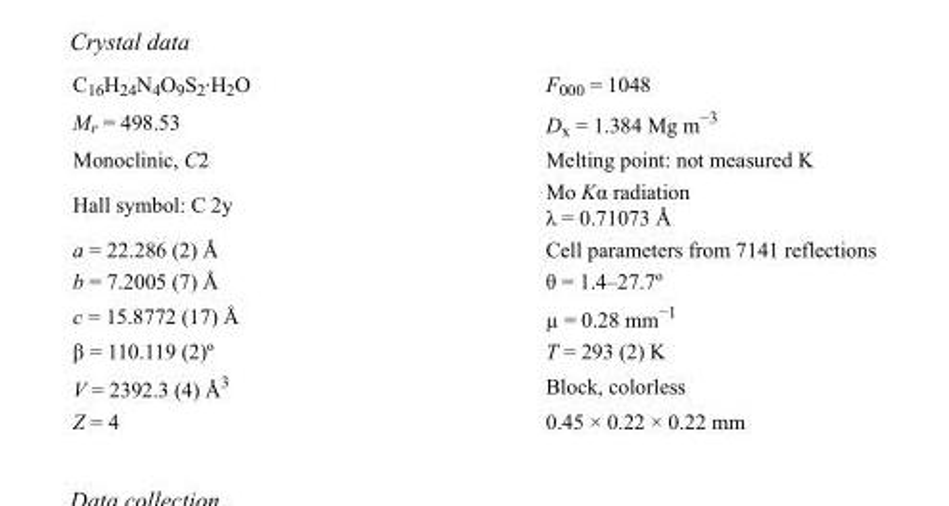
<table><tbody><tr><td>C<sub>16</sub>H<sub>24</sub>N<sub>4</sub>O<sub>9</sub>S<sub>2</sub>·H<sub>2</sub>O</td><td>F000 = 1048</td></tr><tr><td>M<sub>r</sub> = 498.53</td><td>D<sub>x</sub> = 1.384 Mg m<sup>−3</sup></td></tr><tr><td>Monoclinic, C2</td><td>Melting point: not measured K</td></tr><tr><td>Hall symbol: C 2y</td><td>Mo Kα radiation λ = 0.71073 Å</td></tr><tr><td>a = 22.286 (2) Å</td><td>Cell parameters from 7141 reflections</td></tr><tr><td>b = 7.2005 (7) Å</td><td>θ = 1.4–27.7º</td></tr><tr><td>c = 15.8772 (17) Å</td><td>µ = 0.28 mm<sup>−1</sup></td></tr><tr><td>β = 110.119 (2)º</td><td>T = 293 (2) K</td></tr><tr><td>V = 2392.3 (4) Å<sup>3</sup></td><td>Block, colorless</td></tr><tr><td>Z = 4</td><td>0.45 × 0.22 × 0.22 mm</td></tr></tbody></table>